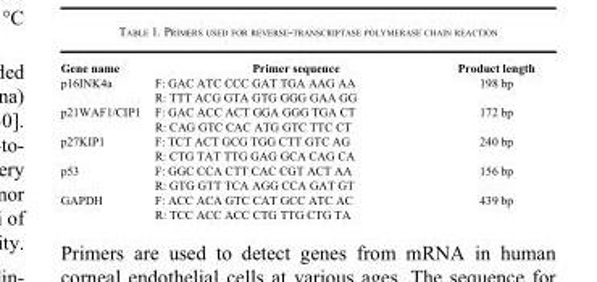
<table><thead><tr><td>Gene name</td><td>Primer sequence</td><td>Product length</td></tr></thead><tbody><tr><td rowspan="2">p16<sup>INK4a</sup></td><td>F: GAC ATC CCC GAT TGA AAG AA</td><td>198 bp</td></tr><tr><td>R: TTT ACG GTA GTG GGG GAA GG</td><td></td></tr><tr><td rowspan="2">p21<sup>WAF1/CIP1</sup></td><td>F: GAC ACC ACT GGA GGG TGA CT</td><td>172 bp</td></tr><tr><td>R: CAG GTC CAC ATG GTC TTC CT</td><td></td></tr><tr><td rowspan="2">p27<sup>KIP1</sup></td><td>F: TCT ACT GCG TGG CTT GTC AG</td><td>240 bp</td></tr><tr><td>R: CTG TAT TTG GAG GCA CAG CA</td><td></td></tr><tr><td rowspan="2">p53</td><td>F: GGC CCA CTT CAC CGT ACT AA</td><td>156 bp</td></tr><tr><td>R: GTG GTT TCA AGG CCA GAT GT</td><td></td></tr><tr><td rowspan="2">GAPDH</td><td>F: ACC ACA GTC CAT GCC ATC AC</td><td>439 bp</td></tr><tr><td>R: TCC ACC ACC CTG TTG CTG TA</td><td></td></tr></tbody></table>